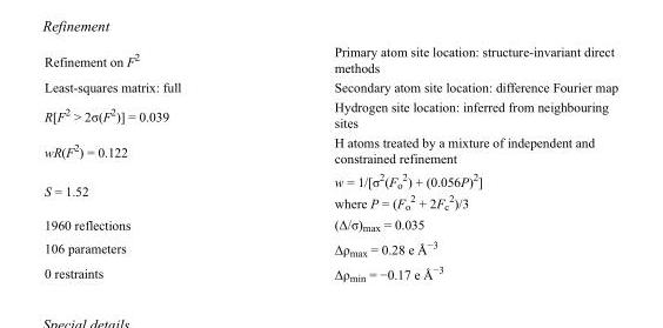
<table><tbody><tr><td>Refinement on F<sup>2</sup></td><td>Primary atom site location: structure-invariant direct methods</td></tr><tr><td>Least-squares matrix: full</td><td>Secondary atom site location: difference Fourier map</td></tr><tr><td>R[F<sup>2</sup> &gt; 2σ(F<sup>2</sup>)] = 0.039</td><td>Hydrogen site location: inferred from neighbouring sites</td></tr><tr><td>wR(F<sup>2</sup>) = 0.122</td><td>H atoms treated by a mixture of independent and constrained refinement</td></tr><tr><td>S = 1.52</td><td>w = 1/[σ<sup>2</sup>(F<sub>o</sub> <sup>2</sup>) + (0.056P)<sup>2</sup>] where P = (F<sub>o</sub> <sup>2</sup> + 2F<sub>c</sub> <sup>2</sup>)/3</td></tr><tr><td>1960 reflections</td><td>(Δ/σ)<sub>max</sub> = 0.035</td></tr><tr><td>106 parameters</td><td>Δρ<sub>max</sub> = 0.28 e Å<sup>−3</sup></td></tr><tr><td>0 restraints</td><td>Δρ<sub>min</sub> = −0.17 e Å<sup>−3</sup></td></tr></tbody></table>